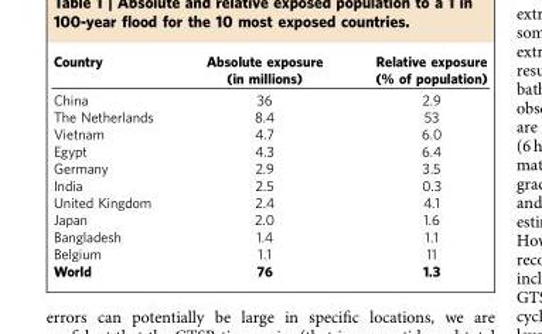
<table><thead><tr><td>Country</td><td>Absolute exposure (in millions)</td><td>Relative exposure (% of population)</td></tr></thead><tbody><tr><td>China</td><td>36</td><td>2.9</td></tr><tr><td>The Netherlands</td><td>8.4</td><td>53</td></tr><tr><td>Vietnam</td><td>4.7</td><td>6.0</td></tr><tr><td>Egypt</td><td>4.3</td><td>6.4</td></tr><tr><td>Germany</td><td>2.9</td><td>3.5</td></tr><tr><td>India</td><td>2.5</td><td>0.3</td></tr><tr><td>United Kingdom</td><td>2.4</td><td>4.1</td></tr><tr><td>Japan</td><td>2.0</td><td>1.6</td></tr><tr><td>Bangladesh</td><td>1.4</td><td>1.1</td></tr><tr><td>Belgium</td><td>1.1</td><td>11</td></tr><tr><td>World</td><td>76</td><td>1.3</td></tr></tbody></table>